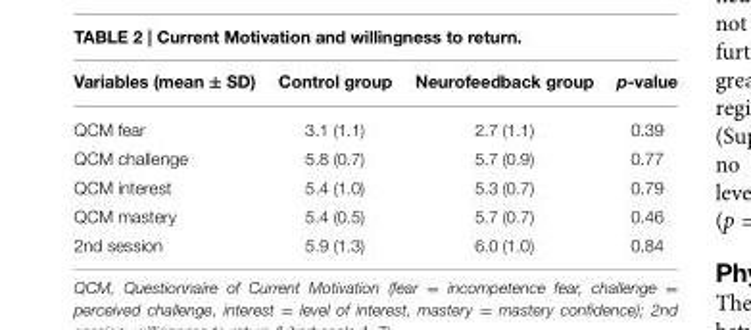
<table><thead><tr><td>Variables (mean ± SD)</td><td>Control group</td><td>Neurofeedback group</td><td>p-value</td></tr></thead><tbody><tr><td>QCM fear</td><td>3.1 (1.1)</td><td>2.7 (1.1)</td><td>0.39</td></tr><tr><td>QCM challenge</td><td>5.8 (0.7)</td><td>5.7 (0.9)</td><td>0.77</td></tr><tr><td>QCM interest</td><td>5.4 (1.0)</td><td>5.3 (0.7)</td><td>0.79</td></tr><tr><td>QCM mastery</td><td>5.4 (0.5)</td><td>5.7 (0.7)</td><td>0.46</td></tr><tr><td>2nd session</td><td>5.9 (1.3)</td><td>6.0 (1.0)</td><td>0.84</td></tr></tbody></table>